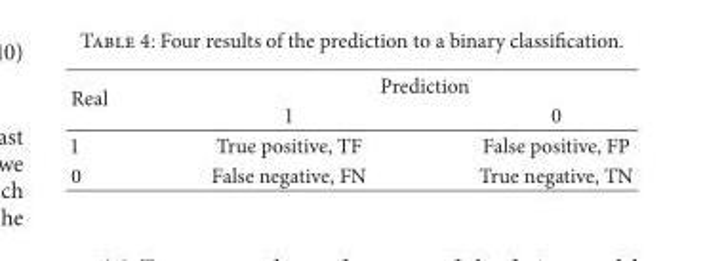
<table><thead><tr><td rowspan="2">Real</td><td colspan="2">Prediction</td></tr><tr><td>1</td><td>0</td></tr></thead><tbody><tr><td>1</td><td>True positive, TF</td><td>False positive, FP</td></tr><tr><td>0</td><td>False negative, FN</td><td>True negative, TN</td></tr></tbody></table>